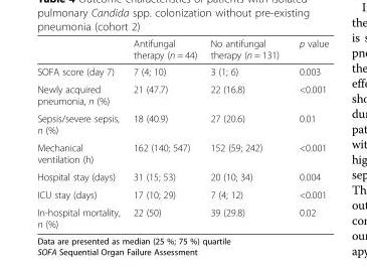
<table><thead><tr><td></td><td>Antifungal therapy (n = 44)</td><td>No antifungal therapy (n = 131)</td><td>p value</td></tr></thead><tbody><tr><td>SOFA score (day 7)</td><td>7 (4; 10)</td><td>3 (1; 6)</td><td>0.003</td></tr><tr><td>Newly acquired pneumonia, n (%)</td><td>21 (47.7)</td><td>22 (16.8)</td><td>&lt;0.001</td></tr><tr><td>Sepsis/severe sepsis, n (%)</td><td>18 (40.9)</td><td>27 (20.6)</td><td>0.01</td></tr><tr><td>Mechanical ventilation (h)</td><td>162 (140; 547)</td><td>152 (59; 242)</td><td>&lt;0.001</td></tr><tr><td>Hospital stay (days)</td><td>31 (15; 53)</td><td>20 (10; 34)</td><td>0.004</td></tr><tr><td>ICU stay (days)</td><td>17 (10; 29)</td><td>7 (4; 12)</td><td>&lt;0.001</td></tr><tr><td>In-hospital mortality, n (%)</td><td>22 (50)</td><td>39 (29.8)</td><td>0.02</td></tr></tbody></table>